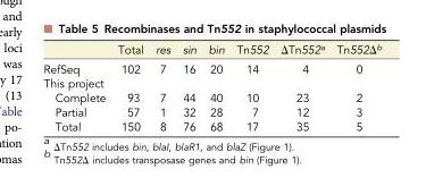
<table><thead><tr><td></td><td>Total</td><td>res</td><td>sin</td><td>bin</td><td>Tn552</td><td>ΔTn552<sup>a</sup></td><td>Tn552Δ<sup>b</sup></td></tr></thead><tbody><tr><td>RefSeq</td><td>102</td><td>7</td><td>16</td><td>20</td><td>14</td><td>4</td><td>0</td></tr><tr><td colspan="8">This project</td></tr><tr><td>Complete</td><td>93</td><td>7</td><td>44</td><td>40</td><td>10</td><td>23</td><td>2</td></tr><tr><td>Partial</td><td>57</td><td>1</td><td>32</td><td>28</td><td>7</td><td>12</td><td>3</td></tr><tr><td>Total</td><td>150</td><td>8</td><td>76</td><td>68</td><td>17</td><td>35</td><td>5</td></tr></tbody></table>